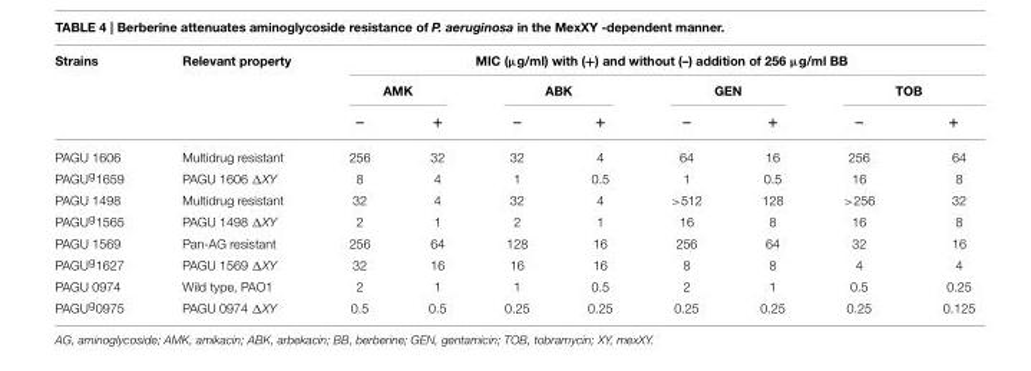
<table><thead><tr><td rowspan="3">Strains</td><td rowspan="3">Relevant property</td><td colspan="8">MIC (µg/ml) with (+) and without (–) addition of 256 µg/ml BB</td></tr><tr><td colspan="2">AMK</td><td colspan="2">ABK</td><td colspan="2">GEN</td><td colspan="2">TOB</td></tr><tr><td>−</td><td>+</td><td>−</td><td>+</td><td>−</td><td>+</td><td>−</td><td>+</td></tr></thead><tbody><tr><td>PAGU 1606</td><td>Multidrug resistant</td><td>256</td><td>32</td><td>32</td><td>4</td><td>64</td><td>16</td><td>256</td><td>64</td></tr><tr><td>PAGU<sup>g</sup>1659</td><td>PAGU 1606 ΔXY</td><td>8</td><td>4</td><td>1</td><td>0.5</td><td>1</td><td>0.5</td><td>16</td><td>8</td></tr><tr><td>PAGU 1498</td><td>Multidrug resistant</td><td>32</td><td>4</td><td>32</td><td>4</td><td>&gt;512</td><td>128</td><td>&gt;256</td><td>32</td></tr><tr><td>PAGU<sup>g</sup>1565</td><td>PAGU 1498 ΔXY</td><td>2</td><td>1</td><td>2</td><td>1</td><td>16</td><td>8</td><td>16</td><td>8</td></tr><tr><td>PAGU 1569</td><td>Pan-AG resistant</td><td>256</td><td>64</td><td>128</td><td>16</td><td>256</td><td>64</td><td>32</td><td>16</td></tr><tr><td>PAGU<sup>g</sup>1627</td><td>PAGU 1569 ΔXY</td><td>32</td><td>16</td><td>16</td><td>16</td><td>8</td><td>8</td><td>4</td><td>4</td></tr><tr><td>PAGU 0974</td><td>Wild type, PAO1</td><td>2</td><td>1</td><td>1</td><td>0.5</td><td>2</td><td>1</td><td>0.5</td><td>0.25</td></tr><tr><td>PAGU<sup>g</sup>0975</td><td>PAGU 0974 ΔXY</td><td>0.5</td><td>0.5</td><td>0.25</td><td>0.25</td><td>0.25</td><td>0.25</td><td>0.25</td><td>0.125</td></tr></tbody></table>